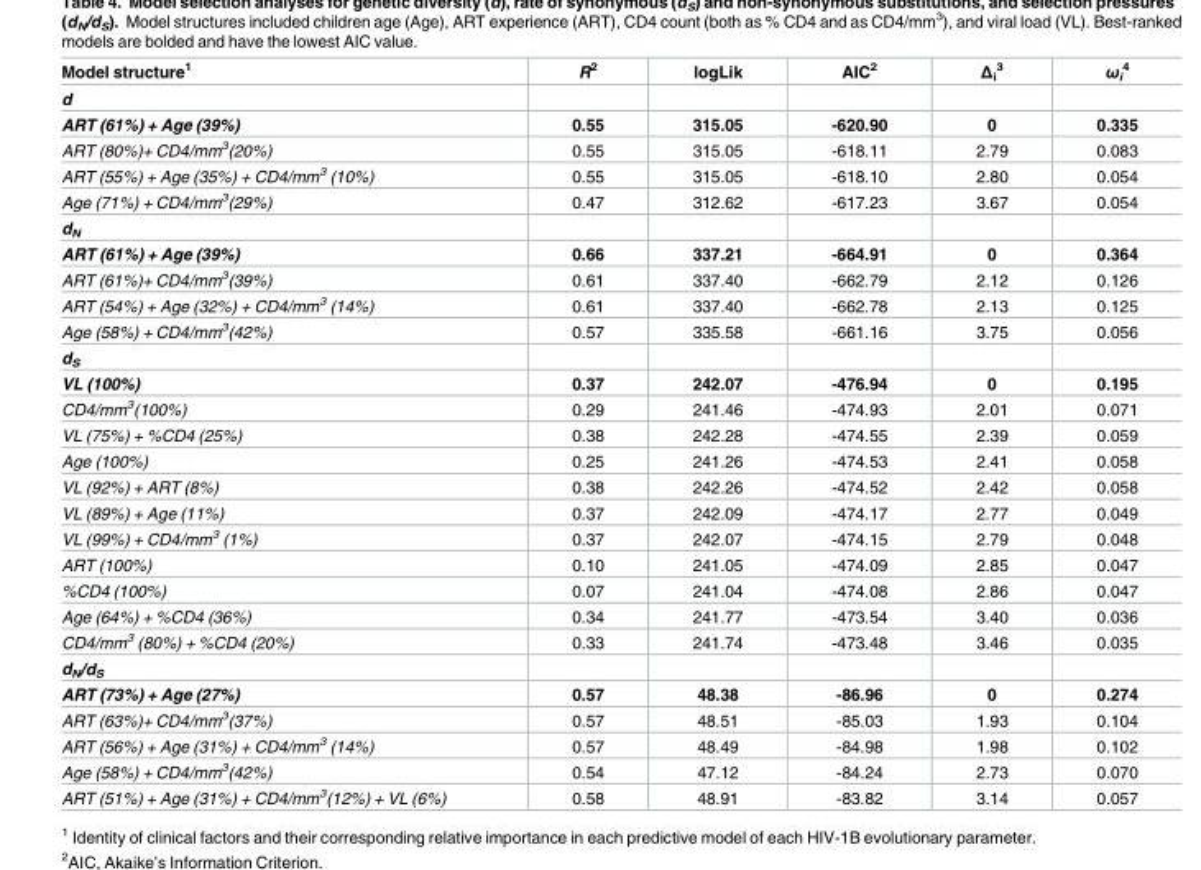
<table><thead><tr><td>Model structure<sup>1</sup></td><td>R<sup>2</sup></td><td>logLik</td><td>AIC<sup>2</sup></td><td>Δ<sub>i</sub> <sup>3</sup></td><td>ω<sub>i</sub> <sup>4</sup></td></tr></thead><tbody><tr><td colspan="6">d</td></tr><tr><td>ART (61%) + Age (39%)</td><td>0.55</td><td>315.05</td><td>-620.90</td><td>0</td><td>0.335</td></tr><tr><td>ART (80%)+ CD4/mm<sup>3</sup>(20%)</td><td>0.55</td><td>315.05</td><td>-618.11</td><td>2.79</td><td>0.083</td></tr><tr><td>ART (55%) + Age (35%) + CD4/mm<sup>3</sup> (10%)</td><td>0.55</td><td>315.05</td><td>-618.10</td><td>2.80</td><td>0.054</td></tr><tr><td>Age (71%) + CD4/mm<sup>3</sup>(29%)</td><td>0.47</td><td>312.62</td><td>-617.23</td><td>3.67</td><td>0.054</td></tr><tr><td colspan="6">d<sub>N</sub></td></tr><tr><td>ART (61%) + Age (39%)</td><td>0.66</td><td>337.21</td><td>-664.91</td><td>0</td><td>0.364</td></tr><tr><td>ART (61%)+ CD4/mm<sup>3</sup>(39%)</td><td>0.61</td><td>337.40</td><td>-662.79</td><td>2.12</td><td>0.126</td></tr><tr><td>ART (54%) + Age (32%) + CD4/mm<sup>3</sup> (14%)</td><td>0.61</td><td>337.40</td><td>-662.78</td><td>2.13</td><td>0.125</td></tr><tr><td>Age (58%) + CD4/mm<sup>3</sup>(42%)</td><td>0.57</td><td>335.58</td><td>-661.16</td><td>3.75</td><td>0.056</td></tr><tr><td colspan="6">d<sub>S</sub></td></tr><tr><td>VL (100%)</td><td>0.37</td><td>242.07</td><td>-476.94</td><td>0</td><td>0.195</td></tr><tr><td>CD4/mm<sup>3</sup>(100%)</td><td>0.29</td><td>241.46</td><td>-474.93</td><td>2.01</td><td>0.071</td></tr><tr><td>VL (75%) + %CD4 (25%)</td><td>0.38</td><td>242.28</td><td>-474.55</td><td>2.39</td><td>0.059</td></tr><tr><td>Age (100%)</td><td>0.25</td><td>241.26</td><td>-474.53</td><td>2.41</td><td>0.058</td></tr><tr><td>VL (92%) + ART (8%)</td><td>0.38</td><td>242.26</td><td>-474.52</td><td>2.42</td><td>0.058</td></tr><tr><td>VL (89%) + Age (11%)</td><td>0.37</td><td>242.09</td><td>-474.17</td><td>2.77</td><td>0.049</td></tr><tr><td>VL (99%) + CD4/mm<sup>3</sup> (1%)</td><td>0.37</td><td>242.07</td><td>-474.15</td><td>2.79</td><td>0.048</td></tr><tr><td>ART (100%)</td><td>0.10</td><td>241.05</td><td>-474.09</td><td>2.85</td><td>0.047</td></tr><tr><td>%CD4 (100%)</td><td>0.07</td><td>241.04</td><td>-474.08</td><td>2.86</td><td>0.047</td></tr><tr><td>Age (64%) + %CD4 (36%)</td><td>0.34</td><td>241.77</td><td>-473.54</td><td>3.40</td><td>0.036</td></tr><tr><td>CD4/mm<sup>3</sup> (80%) + %CD4 (20%)</td><td>0.33</td><td>241.74</td><td>-473.48</td><td>3.46</td><td>0.035</td></tr><tr><td colspan="6">d<sub>N</sub>/d<sub>S</sub></td></tr><tr><td>ART (73%) + Age (27%)</td><td>0.57</td><td>48.38</td><td>-86.96</td><td>0</td><td>0.274</td></tr><tr><td>ART (63%)+ CD4/mm<sup>3</sup>(37%)</td><td>0.57</td><td>48.51</td><td>-85.03</td><td>1.93</td><td>0.104</td></tr><tr><td>ART (56%) + Age (31%) + CD4/mm<sup>3</sup> (14%)</td><td>0.57</td><td>48.49</td><td>-84.98</td><td>1.98</td><td>0.102</td></tr><tr><td>Age (58%) + CD4/mm<sup>3</sup>(42%)</td><td>0.54</td><td>47.12</td><td>-84.24</td><td>2.73</td><td>0.070</td></tr><tr><td>ART (51%) + Age (31%) + CD4/mm<sup>3</sup>(12%) + VL (6%)</td><td>0.58</td><td>48.91</td><td>-83.82</td><td>3.14</td><td>0.057</td></tr></tbody></table>